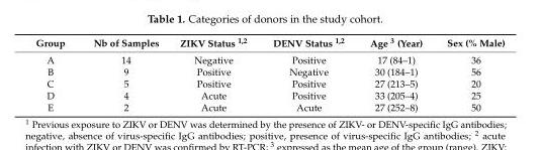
<table><thead><tr><td>Group</td><td>Nb of Samples</td><td>ZIKV Status <sup>1,2</sup></td><td>DENV Status <sup>1,2</sup></td><td>Age <sup>3</sup> (Year)</td><td>Sex (% Male)</td></tr></thead><tbody><tr><td>A</td><td>14</td><td>Negative</td><td>Positive</td><td>17 (84–1)</td><td>36</td></tr><tr><td>B</td><td>9</td><td>Positive</td><td>Negative</td><td>30 (184–1)</td><td>56</td></tr><tr><td>C</td><td>5</td><td>Positive</td><td>Positive</td><td>27 (213–5)</td><td>20</td></tr><tr><td>D</td><td>4</td><td>Acute</td><td>Positive</td><td>33 (205–4)</td><td>25</td></tr><tr><td>E</td><td>2</td><td>Acute</td><td>Acute</td><td>27 (252–8)</td><td>50</td></tr></tbody></table>